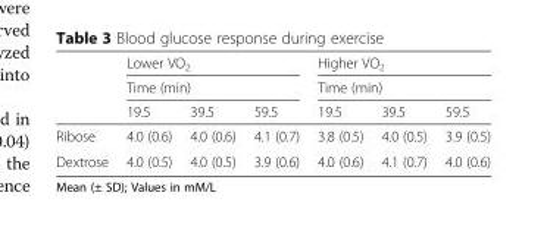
<table><thead><tr><td rowspan="3"></td><td rowspan="2" colspan="3">Lower VO<sub>2</sub> Time (min)</td><td rowspan="2" colspan="3">Higher VO<sub>2</sub> Time (min)</td></tr><tr></tr><tr><td>19.5</td><td>39.5</td><td>59.5</td><td>19.5</td><td>39.5</td><td>59.5</td></tr></thead><tbody><tr><td>Ribose</td><td>4.0 (0.6)</td><td>4.0 (0.6)</td><td>4.1 (0.7)</td><td>3.8 (0.5)</td><td>4.0 (0.5)</td><td>3.9 (0.5)</td></tr><tr><td>Dextrose</td><td>4.0 (0.5)</td><td>4.0 (0.5)</td><td>3.9 (0.6)</td><td>4.0 (0.6)</td><td>4.1 (0.7)</td><td>4.0 (0.6)</td></tr></tbody></table>